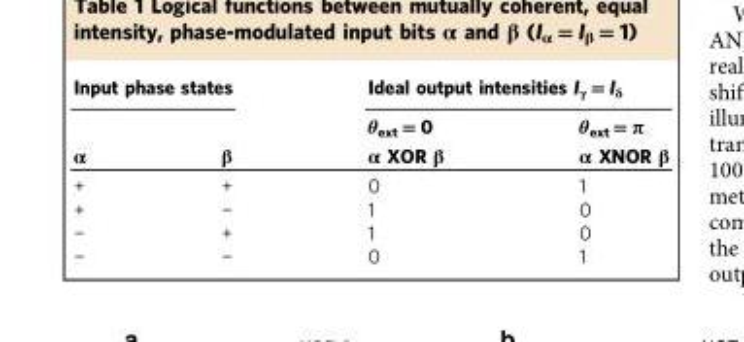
<table><thead><tr><td colspan="2">Input phase states</td><td colspan="2">Ideal output intensities I<sub>γ</sub> = I<sub>δ</sub></td></tr><tr><td rowspan="2">α</td><td rowspan="2">β</td><td rowspan="2">θ<sub>ext</sub> = 0 α XOR β</td><td rowspan="2">θ<sub>ext</sub> = π α XNOR β</td></tr><tr></tr></thead><tbody><tr><td>+</td><td>+</td><td>0</td><td>1</td></tr><tr><td>+</td><td>−</td><td>1</td><td>0</td></tr><tr><td>−</td><td>+</td><td>1</td><td>0</td></tr><tr><td>−</td><td>−</td><td>0</td><td>1</td></tr></tbody></table>